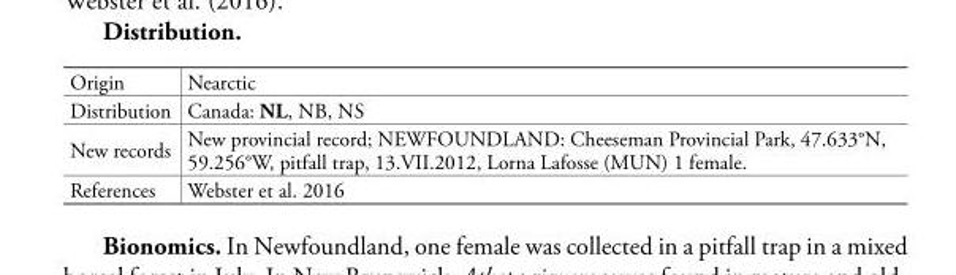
<table><tbody><tr><td>Origin</td><td>Nearctic</td></tr><tr><td>Distribution</td><td>Canada: NL, NB, NS</td></tr><tr><td>New records</td><td>New provincial record; NEWFOUNDLAND: Cheeseman Provincial Park, 47.633°N, 59.256°W, pitfall trap, 13.VII.2012, Lorna Lafosse (MUN) 1 female.</td></tr><tr><td>References</td><td>Webster et al. 2016</td></tr></tbody></table>